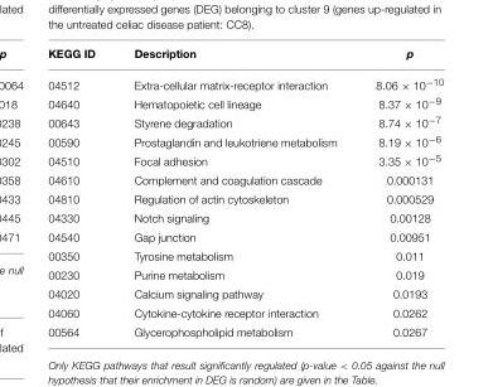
<table><thead><tr><td>KEGG ID</td><td>Description</td><td>p</td></tr></thead><tbody><tr><td>04512</td><td>Extra-cellular matrix-receptor interaction</td><td>8.06 × 10<sup>−10</sup></td></tr><tr><td>04640</td><td>Hematopoietic cell lineage</td><td>8.37 × 10<sup>−9</sup></td></tr><tr><td>00643</td><td>Styrene degradation</td><td>8.74 × 10<sup>−7</sup></td></tr><tr><td>00590</td><td>Prostaglandin and leukotriene metabolism</td><td>8.19 × 10<sup>−6</sup></td></tr><tr><td>04510</td><td>Focal adhesion</td><td>3.35 × 10<sup>−5</sup></td></tr><tr><td>04610</td><td>Complement and coagulation cascade</td><td>0.000131</td></tr><tr><td>04810</td><td>Regulation of actin cytoskeleton</td><td>0.000529</td></tr><tr><td>04330</td><td>Notch signaling</td><td>0.00128</td></tr><tr><td>04540</td><td>Gap junction</td><td>0.00951</td></tr><tr><td>00350</td><td>Tyrosine metabolism</td><td>0.011</td></tr><tr><td>00230</td><td>Purine metabolism</td><td>0.019</td></tr><tr><td>04020</td><td>Calcium signaling pathway</td><td>0.0193</td></tr><tr><td>04060</td><td>Cytokine-cytokine receptor interaction</td><td>0.0262</td></tr><tr><td>00564</td><td>Glycerophospholipid metabolism</td><td>0.0267</td></tr></tbody></table>